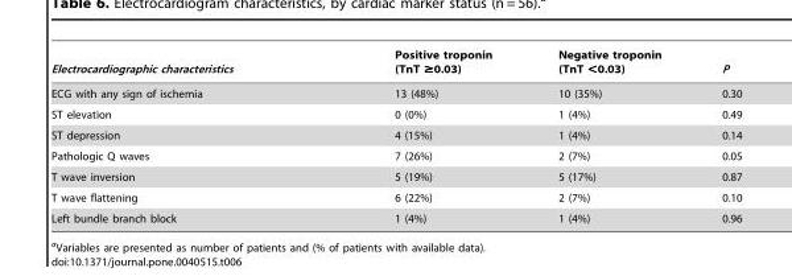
<table><thead><tr><td>Electrocardiographic characteristics</td><td>Positive troponin (TnT ≥0.03)</td><td>Negative troponin (TnT &lt;0.03)</td><td>P</td></tr></thead><tbody><tr><td>ECG with any sign of ischemia</td><td>13 (48%)</td><td>10 (35%)</td><td>0.30</td></tr><tr><td>ST elevation</td><td>0 (0%)</td><td>1 (4%)</td><td>0.49</td></tr><tr><td>ST depression</td><td>4 (15%)</td><td>1 (4%)</td><td>0.14</td></tr><tr><td>Pathologic Q waves</td><td>7 (26%)</td><td>2 (7%)</td><td>0.05</td></tr><tr><td>T wave inversion</td><td>5 (19%)</td><td>5 (17%)</td><td>0.87</td></tr><tr><td>T wave flattening</td><td>6 (22%)</td><td>2 (7%)</td><td>0.10</td></tr><tr><td>Left bundle branch block</td><td>1 (4%)</td><td>1 (4%)</td><td>0.96</td></tr></tbody></table>